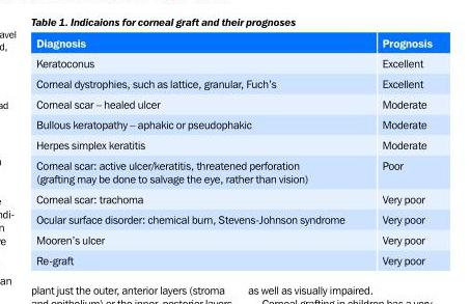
<table><thead><tr><td>Diagnosis</td><td>Prognosis</td></tr></thead><tbody><tr><td>Keratoconus</td><td>Excellent</td></tr><tr><td>Corneal dystrophies, such as lattice, granular, Fuch’s</td><td>Excellent</td></tr><tr><td>Corneal scar – healed ulcer</td><td>Moderate</td></tr><tr><td>Bullous keratopathy – aphakic or pseudophakic</td><td>Moderate</td></tr><tr><td>Herpes simplex keratitis</td><td>Moderate</td></tr><tr><td>Corneal scar: active ulcer/keratitis, threatened perforation (grafting may be done to salvage the eye, rather than vision)</td><td>Poor</td></tr><tr><td>Corneal scar: trachoma</td><td>Very poor</td></tr><tr><td>Ocular surface disorder: chemical burn, Stevens-Johnson syndrome</td><td>Very poor</td></tr><tr><td>Mooren’s ulcer</td><td>Very poor</td></tr><tr><td>Re-graft</td><td>Very poor</td></tr></tbody></table>